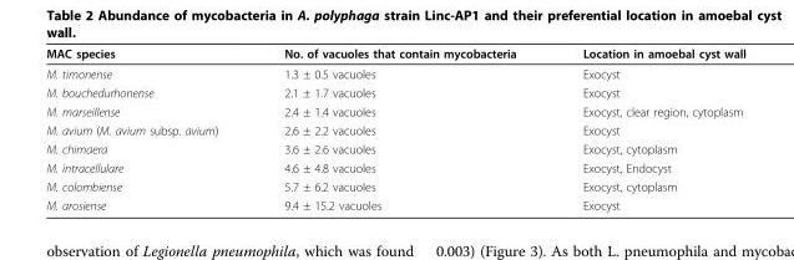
<table><thead><tr><td>MAC species</td><td>No. of vacuoles that contain mycobacteria</td><td>Location in amoebal cyst wall</td></tr></thead><tbody><tr><td>M. timonense</td><td>1.3 ± 0.5 vacuoles</td><td>Exocyst</td></tr><tr><td>M. bouchedurhonense</td><td>2.1 ± 1.7 vacuoles</td><td>Exocyst</td></tr><tr><td>M. marseillense</td><td>2.4 ± 1.4 vacuoles</td><td>Exocyst, clear region, cytoplasm</td></tr><tr><td>M. avium (M. avium subsp. avium)</td><td>2.6 ± 2.2 vacuoles</td><td>Exocyst</td></tr><tr><td>M. chimaera</td><td>3.6 ± 2.6 vacuoles</td><td>Exocyst, cytoplasm</td></tr><tr><td>M. intracellulare</td><td>4.6 ± 4.8 vacuoles</td><td>Exocyst, Endocyst</td></tr><tr><td>M. colombiense</td><td>5.7 ± 6.2 vacuoles</td><td>Exocyst, cytoplasm</td></tr><tr><td>M. arosiense</td><td>9.4 ± 15.2 vacuoles</td><td>Exocyst</td></tr></tbody></table>